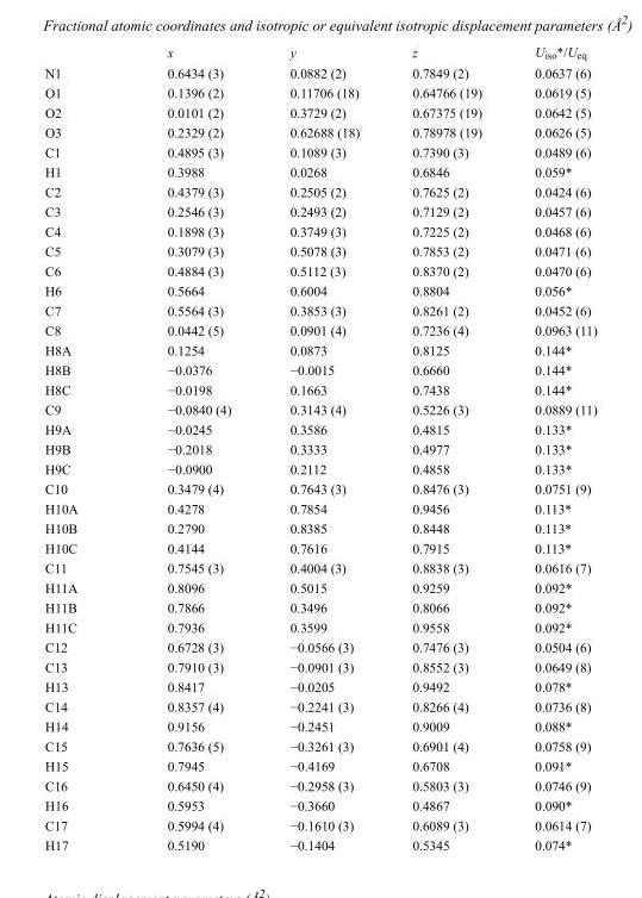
<table><thead><tr><td></td><td>x</td><td>y</td><td>z</td><td>U<sub>iso</sub>*/U<sub>eq</sub></td></tr></thead><tbody><tr><td>N1</td><td>0.6434 (3)</td><td>0.0882 (2)</td><td>0.7849 (2)</td><td>0.0637 (6)</td></tr><tr><td>O1</td><td>0.1396 (2)</td><td>0.11706 (18)</td><td>0.64766 (19)</td><td>0.0619 (5)</td></tr><tr><td>O2</td><td>0.0101 (2)</td><td>0.3729 (2)</td><td>0.67375 (19)</td><td>0.0642 (5)</td></tr><tr><td>O3</td><td>0.2329 (2)</td><td>0.62688 (18)</td><td>0.78978 (19)</td><td>0.0626 (5)</td></tr><tr><td>C1</td><td>0.4895 (3)</td><td>0.1089 (3)</td><td>0.7390 (3)</td><td>0.0489 (6)</td></tr><tr><td>H1</td><td>0.3988</td><td>0.0268</td><td>0.6846</td><td>0.059*</td></tr><tr><td>C2</td><td>0.4379 (3)</td><td>0.2505 (2)</td><td>0.7625 (2)</td><td>0.0424 (6)</td></tr><tr><td>C3</td><td>0.2546 (3)</td><td>0.2493 (2)</td><td>0.7129 (2)</td><td>0.0457 (6)</td></tr><tr><td>C4</td><td>0.1898 (3)</td><td>0.3749 (3)</td><td>0.7225 (2)</td><td>0.0468 (6)</td></tr><tr><td>C5</td><td>0.3079 (3)</td><td>0.5078 (3)</td><td>0.7853 (2)</td><td>0.0471 (6)</td></tr><tr><td>C6</td><td>0.4884 (3)</td><td>0.5112 (3)</td><td>0.8370 (2)</td><td>0.0470 (6)</td></tr><tr><td>H6</td><td>0.5664</td><td>0.6004</td><td>0.8804</td><td>0.056*</td></tr><tr><td>C7</td><td>0.5564 (3)</td><td>0.3853 (3)</td><td>0.8261 (2)</td><td>0.0452 (6)</td></tr><tr><td>C8</td><td>0.0442 (5)</td><td>0.0901 (4)</td><td>0.7236 (4)</td><td>0.0963 (11)</td></tr><tr><td>H8A</td><td>0.1254</td><td>0.0873</td><td>0.8125</td><td>0.144*</td></tr><tr><td>H8B</td><td>−0.0376</td><td>−0.0015</td><td>0.6660</td><td>0.144*</td></tr><tr><td>H8C</td><td>−0.0198</td><td>0.1663</td><td>0.7438</td><td>0.144*</td></tr><tr><td>C9</td><td>−0.0840 (4)</td><td>0.3143 (4)</td><td>0.5226 (3)</td><td>0.0889 (11)</td></tr><tr><td>H9A</td><td>−0.0245</td><td>0.3586</td><td>0.4815</td><td>0.133*</td></tr><tr><td>H9B</td><td>−0.2018</td><td>0.3333</td><td>0.4977</td><td>0.133*</td></tr><tr><td>H9C</td><td>−0.0900</td><td>0.2112</td><td>0.4858</td><td>0.133*</td></tr><tr><td>C10</td><td>0.3479 (4)</td><td>0.7643 (3)</td><td>0.8476 (3)</td><td>0.0751 (9)</td></tr><tr><td>H10A</td><td>0.4278</td><td>0.7854</td><td>0.9456</td><td>0.113*</td></tr><tr><td>H10B</td><td>0.2790</td><td>0.8385</td><td>0.8448</td><td>0.113*</td></tr><tr><td>H10C</td><td>0.4144</td><td>0.7616</td><td>0.7915</td><td>0.113*</td></tr><tr><td>C11</td><td>0.7545 (3)</td><td>0.4004 (3)</td><td>0.8838 (3)</td><td>0.0616 (7)</td></tr><tr><td>H11A</td><td>0.8096</td><td>0.5015</td><td>0.9259</td><td>0.092*</td></tr><tr><td>H11B</td><td>0.7866</td><td>0.3496</td><td>0.8066</td><td>0.092*</td></tr><tr><td>H11C</td><td>0.7936</td><td>0.3599</td><td>0.9558</td><td>0.092*</td></tr><tr><td>C12</td><td>0.6728 (3)</td><td>−0.0566 (3)</td><td>0.7476 (3)</td><td>0.0504 (6)</td></tr><tr><td>C13</td><td>0.7910 (3)</td><td>−0.0901 (3)</td><td>0.8552 (3)</td><td>0.0649 (8)</td></tr><tr><td>H13</td><td>0.8417</td><td>−0.0205</td><td>0.9492</td><td>0.078*</td></tr><tr><td>C14</td><td>0.8357 (4)</td><td>−0.2241 (3)</td><td>0.8266 (4)</td><td>0.0736 (8)</td></tr><tr><td>H14</td><td>0.9156</td><td>−0.2451</td><td>0.9009</td><td>0.088*</td></tr><tr><td>C15</td><td>0.7636 (5)</td><td>−0.3261 (3)</td><td>0.6901 (4)</td><td>0.0758 (9)</td></tr><tr><td>H15</td><td>0.7945</td><td>−0.4169</td><td>0.6708</td><td>0.091*</td></tr><tr><td>C16</td><td>0.6450 (4)</td><td>−0.2958 (3)</td><td>0.5803 (3)</td><td>0.0746 (9)</td></tr><tr><td>H16</td><td>0.5953</td><td>−0.3660</td><td>0.4867</td><td>0.090*</td></tr><tr><td>C17</td><td>0.5994 (4)</td><td>−0.1610 (3)</td><td>0.6089 (3)</td><td>0.0614 (7)</td></tr><tr><td>H17</td><td>0.5190</td><td>−0.1404</td><td>0.5345</td><td>0.074*</td></tr></tbody></table>